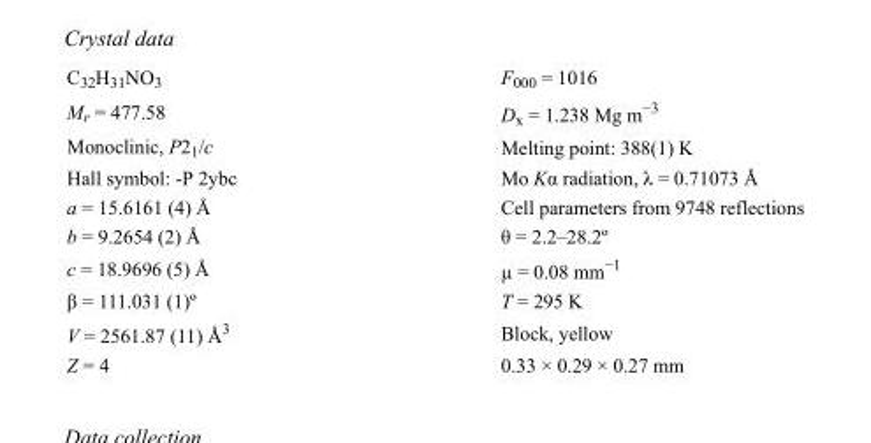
<table><tbody><tr><td>C<sub>32</sub>H<sub>31</sub>NO<sub>3</sub></td><td>F000 = 1016</td></tr><tr><td>M<sub>r</sub> = 477.58</td><td>D<sub>x</sub> = 1.238 Mg m<sup>−3</sup></td></tr><tr><td>Monoclinic, P2<sub>1</sub>/c</td><td>Melting point: 388(1) K</td></tr><tr><td>Hall symbol: -P 2ybc</td><td>Mo Kα radiation, λ = 0.71073 Å</td></tr><tr><td>a = 15.6161 (4) Å</td><td>Cell parameters from 9748 reflections</td></tr><tr><td>b = 9.2654 (2) Å</td><td>θ = 2.2–28.2º</td></tr><tr><td>c = 18.9696 (5) Å</td><td>µ = 0.08 mm<sup>−1</sup></td></tr><tr><td>β = 111.031 (1)º</td><td>T = 295 K</td></tr><tr><td>V = 2561.87 (11) Å<sup>3</sup></td><td>Block, yellow</td></tr><tr><td>Z = 4</td><td>0.33 × 0.29 × 0.27 mm</td></tr></tbody></table>